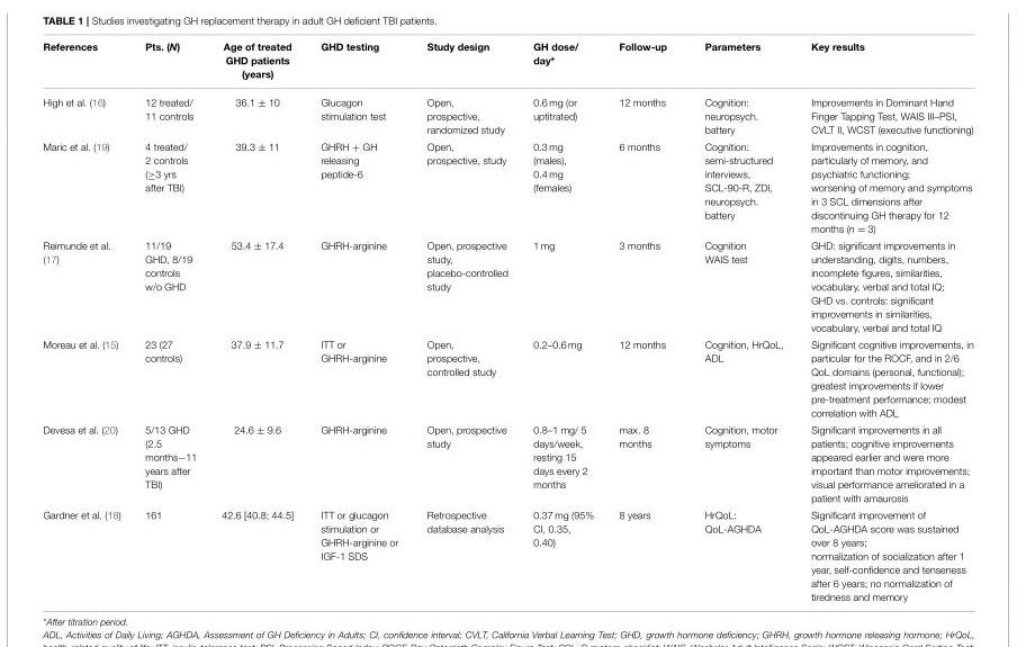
<table><thead><tr><td>References</td><td>Pts. (N)</td><td>Age of treated GHD patients (years)</td><td>GHD testing</td><td>Study design</td><td>GH dose/ day*</td><td>Follow-up</td><td>Parameters</td><td>Key results</td></tr></thead><tbody><tr><td>High et al. (16)</td><td>12 treated/ 11 controls</td><td>36.1 ± 10</td><td>Glucagon stimulation test</td><td>Open, prospective, randomized study</td><td>0.6 mg (or uptitrated)</td><td>12 months</td><td>Cognition: neuropsych. battery</td><td>Improvements in Dominant Hand Finger Tapping Test, WAIS III–PSI, CVLT II, WCST (executive functioning)</td></tr><tr><td>Maric et al. (19)</td><td>4 treated/ 2 controls (≥3 yrs after TBI)</td><td>39.3 ± 11</td><td>GHRH + GH releasing peptide-6</td><td>Open, prospective, study</td><td>0.3 mg (males), 0.4 mg (females)</td><td>6 months</td><td>Cognition: semi-structured interviews, SCL-90-R, ZDI, neuropsych. battery</td><td>Improvements in cognition, particularly of memory, and psychiatric functioning; worsening of memory and symptoms in 3 SCL dimensions after discontinuing GH therapy for 12 months (n = 3)</td></tr><tr><td>Reimunde et al. (17)</td><td>11/19 GHD, 8/19 controls w/o GHD</td><td>53.4 ± 17.4</td><td>GHRH-arginine</td><td>Open, prospective study, placebo-controlled study</td><td>1 mg</td><td>3 months</td><td>Cognition WAIS test</td><td>GHD: significant improvements in understanding, digits, numbers, incomplete figures, similarities, vocabulary, verbal and total IQ; GHD vs. controls: significant improvements in similarities, vocabulary, verbal and total IQ</td></tr><tr><td>Moreau et al. (15)</td><td>23 (27 controls)</td><td>37.9 ± 11.7</td><td>ITT or GHRH-arginine</td><td>Open, prospective, controlled study</td><td>0.2–0.6 mg</td><td>12 months</td><td>Cognition, HrQoL, ADL</td><td>Significant cognitive improvements, in particular for the ROCF, and in 2/6 QoL domains (personal, functional); greatest improvements if lower pre-treatment performance; modest correlation with ADL</td></tr><tr><td>Devesa et al. (20)</td><td>5/13 GHD (2.5 months−11 years after TBI)</td><td>24.6 ± 9.6</td><td>GHRH-arginine</td><td>Open, prospective study</td><td>0.8–1 mg/ 5 days/week, resting 15 days every 2 months</td><td>max. 8 months</td><td>Cognition, motor symptoms</td><td>Significant improvements in all patients; cognitive improvements appeared earlier and were more important than motor improvements; visual performance ameliorated in a patient with amaurosis</td></tr><tr><td>Gardner et al. (18)</td><td>161</td><td>42.6 [40.8; 44.5]</td><td>ITT or glucagon stimulation or GHRH-arginine or IGF-1 SDS</td><td>Retrospective database analysis</td><td>0.37 mg (95% CI, 0.35, 0.40)</td><td>8 years</td><td>HrQoL: QoL-AGHDA</td><td>Significant improvement of QoL-AGHDA score was sustained over 8 years; normalization of socialization after 1 year, self-confidence and tenseness after 6 years; no normalization of tiredness and memory</td></tr></tbody></table>